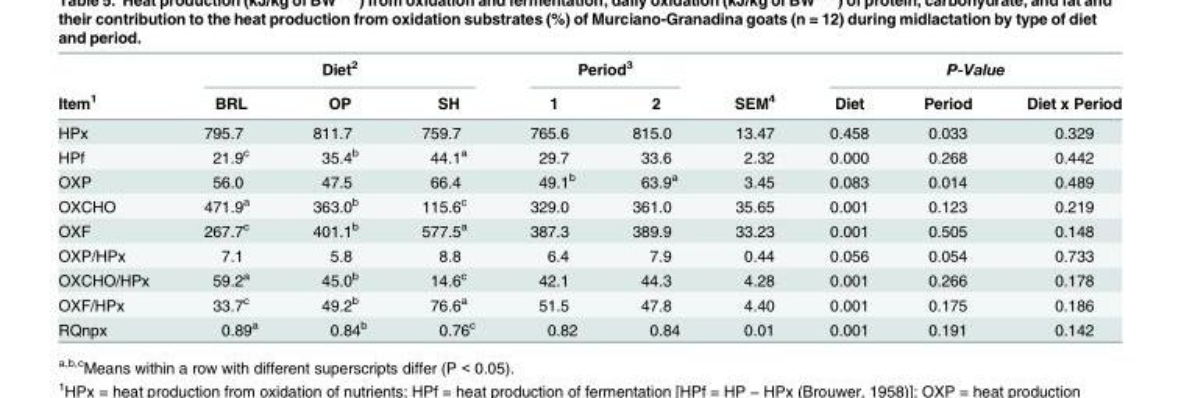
<table><thead><tr><td rowspan="2">Item<sup>1</sup></td><td colspan="3">Diet<sup>2</sup></td><td colspan="2">Period<sup>3</sup></td><td rowspan="2">SEM<sup>4</sup></td><td colspan="3">P-Value</td></tr><tr><td>BRL</td><td>OP</td><td>SH</td><td>1</td><td>2</td><td>Diet</td><td>Period</td><td>Diet x Period</td></tr></thead><tbody><tr><td>HPx</td><td>795.7</td><td>811.7</td><td>759.7</td><td>765.6</td><td>815.0</td><td>13.47</td><td>0.458</td><td>0.033</td><td>0.329</td></tr><tr><td>HPf</td><td>21.9<sup>c</sup></td><td>35.4<sup>b</sup></td><td>44.1<sup>a</sup></td><td>29.7</td><td>33.6</td><td>2.32</td><td>0.000</td><td>0.268</td><td>0.442</td></tr><tr><td>OXP</td><td>56.0</td><td>47.5</td><td>66.4</td><td>49.1<sup>b</sup></td><td>63.9<sup>a</sup></td><td>3.45</td><td>0.083</td><td>0.014</td><td>0.489</td></tr><tr><td>OXCHO</td><td>471.9<sup>a</sup></td><td>363.0<sup>b</sup></td><td>115.6<sup>c</sup></td><td>329.0</td><td>361.0</td><td>35.65</td><td>0.001</td><td>0.123</td><td>0.219</td></tr><tr><td>OXF</td><td>267.7<sup>c</sup></td><td>401.1<sup>b</sup></td><td>577.5<sup>a</sup></td><td>387.3</td><td>389.9</td><td>33.23</td><td>0.001</td><td>0.505</td><td>0.148</td></tr><tr><td>OXP/HPx</td><td>7.1</td><td>5.8</td><td>8.8</td><td>6.4</td><td>7.9</td><td>0.44</td><td>0.056</td><td>0.054</td><td>0.733</td></tr><tr><td>OXCHO/HPx</td><td>59.2<sup>a</sup></td><td>45.0<sup>b</sup></td><td>14.6<sup>c</sup></td><td>42.1</td><td>44.3</td><td>4.28</td><td>0.001</td><td>0.266</td><td>0.178</td></tr><tr><td>OXF/HPx</td><td>33.7<sup>c</sup></td><td>49.2<sup>b</sup></td><td>76.6<sup>a</sup></td><td>51.5</td><td>47.8</td><td>4.40</td><td>0.001</td><td>0.175</td><td>0.186</td></tr><tr><td>RQnpx</td><td>0.89<sup>a</sup></td><td>0.84<sup>b</sup></td><td>0.76<sup>c</sup></td><td>0.82</td><td>0.84</td><td>0.01</td><td>0.001</td><td>0.191</td><td>0.142</td></tr></tbody></table>